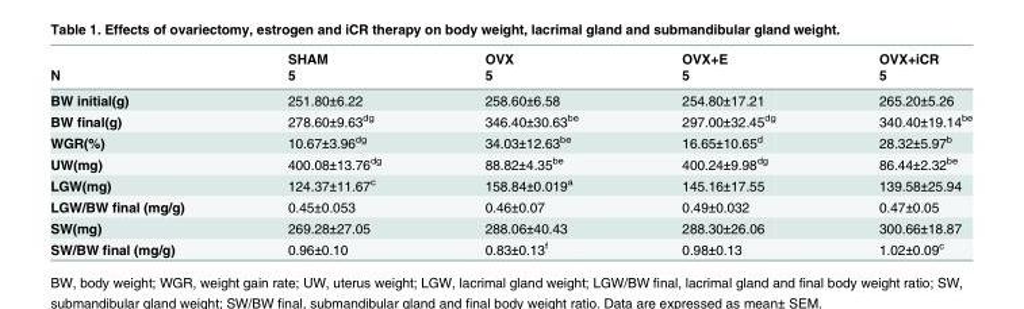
<table><thead><tr><td rowspan="2">N</td><td rowspan="2">SHAM 5</td><td rowspan="2">OVX 5</td><td rowspan="2">OVX+E 5</td><td rowspan="2">OVX+iCR 5</td></tr><tr></tr></thead><tbody><tr><td>BW initial(g)</td><td>251.80±6.22</td><td>258.60±6.58</td><td>254.80±17.21</td><td>265.20±5.26</td></tr><tr><td>BW final(g)</td><td>278.60±9.63<sup>dg</sup></td><td>346.40±30.63<sup>be</sup></td><td>297.00±32.45<sup>dg</sup></td><td>340.40±19.14<sup>be</sup></td></tr><tr><td>WGR(%)</td><td>10.67±3.96<sup>dg</sup></td><td>34.03±12.63<sup>be</sup></td><td>16.65±10.65<sup>d</sup></td><td>28.32±5.97<sup>b</sup></td></tr><tr><td>UW(mg)</td><td>400.08±13.76<sup>dg</sup></td><td>88.82±4.35<sup>be</sup></td><td>400.24±9.98<sup>dg</sup></td><td>86.44±2.32<sup>be</sup></td></tr><tr><td>LGW(mg)</td><td>124.37±11.67<sup>c</sup></td><td>158.84±0.019<sup>a</sup></td><td>145.16±17.55</td><td>139.58±25.94</td></tr><tr><td>LGW/BW final (mg/g)</td><td>0.45±0.053</td><td>0.46±0.07</td><td>0.49±0.032</td><td>0.47±0.05</td></tr><tr><td>SW(mg)</td><td>269.28±27.05</td><td>288.06±40.43</td><td>288.30±26.06</td><td>300.66±18.87</td></tr><tr><td>SW/BW final (mg/g)</td><td>0.96±0.10</td><td>0.83±0.13<sup>f</sup></td><td>0.98±0.13</td><td>1.02±0.09<sup>c</sup></td></tr></tbody></table>